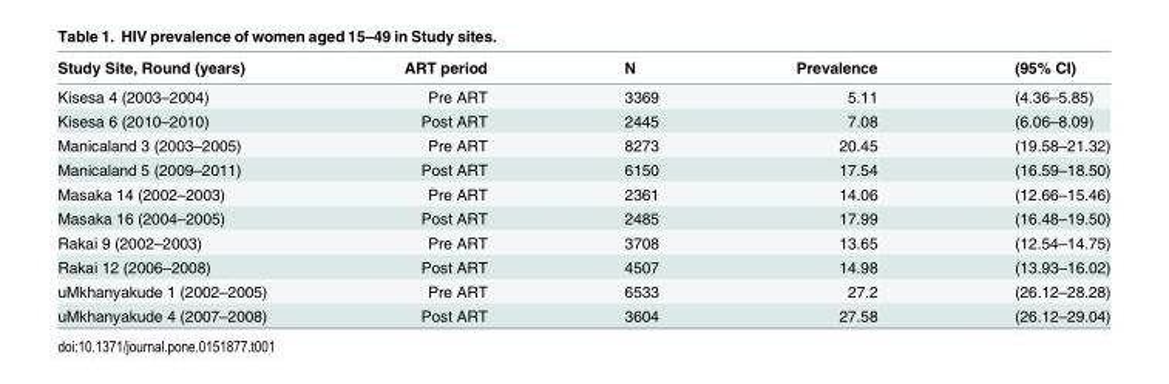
<table><thead><tr><td>Study Site, Round (years)</td><td>ART period</td><td>N</td><td>Prevalence</td><td>(95% CI)</td></tr></thead><tbody><tr><td>Kisesa 4 (2003–2004)</td><td>Pre ART</td><td>3369</td><td>5.11</td><td>(4.36–5.85)</td></tr><tr><td>Kisesa 6 (2010–2010)</td><td>Post ART</td><td>2445</td><td>7.08</td><td>(6.06–8.09)</td></tr><tr><td>Manicaland 3 (2003–2005)</td><td>Pre ART</td><td>8273</td><td>20.45</td><td>(19.58–21.32)</td></tr><tr><td>Manicaland 5 (2009–2011)</td><td>Post ART</td><td>6150</td><td>17.54</td><td>(16.59–18.50)</td></tr><tr><td>Masaka 14 (2002–2003)</td><td>Pre ART</td><td>2361</td><td>14.06</td><td>(12.66–15.46)</td></tr><tr><td>Masaka 16 (2004–2005)</td><td>Post ART</td><td>2485</td><td>17.99</td><td>(16.48–19.50)</td></tr><tr><td>Rakai 9 (2002–2003)</td><td>Pre ART</td><td>3708</td><td>13.65</td><td>(12.54–14.75)</td></tr><tr><td>Rakai 12 (2006–2008)</td><td>Post ART</td><td>4507</td><td>14.98</td><td>(13.93–16.02)</td></tr><tr><td>uMkhanyakude 1 (2002–2005)</td><td>Pre ART</td><td>6533</td><td>27.2</td><td>(26.12–28.28)</td></tr><tr><td>uMkhanyakude 4 (2007–2008)</td><td>Post ART</td><td>3604</td><td>27.58</td><td>(26.12–29.04)</td></tr></tbody></table>